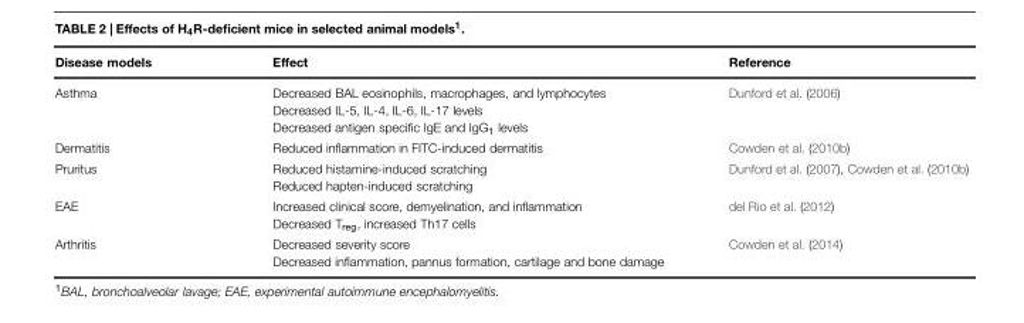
<table><thead><tr><td>Disease models</td><td>Effect</td><td>Reference</td></tr></thead><tbody><tr><td>Asthma</td><td>Decreased BAL eosinophils, macrophages, and lymphocytes Decreased IL-5, IL-4, IL-6, IL-17 levels Decreased antigen specific IgE and IgG<sub>1</sub> levels</td><td>Dunford et al. (2006)</td></tr><tr><td>Dermatitis</td><td>Reduced inflammation in FITC-induced dermatitis</td><td>Cowden et al. (2010b)</td></tr><tr><td>Pruritus</td><td>Reduced histamine-induced scratching Reduced hapten-induced scratching</td><td>Dunford et al. (2007), Cowden et al. (2010b)</td></tr><tr><td>EAE</td><td>Increased clinical score, demyelination, and inflammation Decreased T<sub>reg</sub>, increased Th17 cells</td><td>del Rio et al. (2012)</td></tr><tr><td>Arthritis</td><td>Decreased severity score Decreased inflammation, pannus formation, cartilage and bone damage</td><td>Cowden et al. (2014)</td></tr></tbody></table>